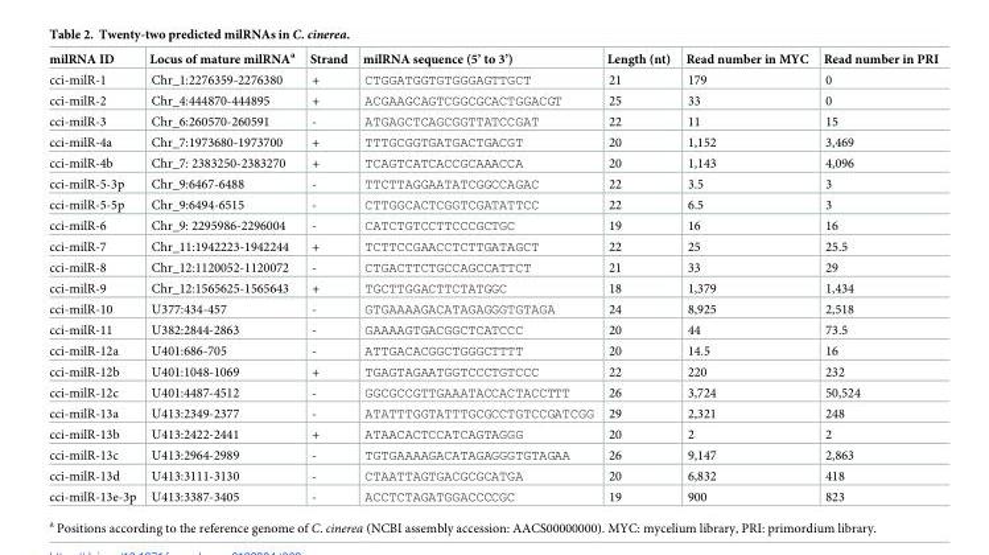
<table><thead><tr><td>milRNA ID</td><td>Locus of mature milRNA<sup>a</sup></td><td>Strand</td><td>milRNA sequence (5’ to 3’)</td><td>Length (nt)</td><td>Read number in MYC</td><td>Read number in PRI</td></tr></thead><tbody><tr><td>cci-milR-1</td><td>Chr_1:2276359-2276380</td><td>+</td><td>CTGGATGGTGTGGGAGTTGCT</td><td>21</td><td>179</td><td>0</td></tr><tr><td>cci-milR-2</td><td>Chr_4:444870-444895</td><td>+</td><td>ACGAAGCAGTCGGCGCACTGGACGT</td><td>25</td><td>33</td><td>0</td></tr><tr><td>cci-milR-3</td><td>Chr_6:260570-260591</td><td>-</td><td>ATGAGCTCAGCGGTTATCCGAT</td><td>22</td><td>11</td><td>15</td></tr><tr><td>cci-milR-4a</td><td>Chr_7:1973680-1973700</td><td>+</td><td>TTTGCGGTGATGACTGACGT</td><td>20</td><td>1,152</td><td>3,469</td></tr><tr><td>cci-milR-4b</td><td>Chr_7: 2383250-2383270</td><td>+</td><td>TCAGTCATCACCGCAAACCA</td><td>20</td><td>1,143</td><td>4,096</td></tr><tr><td>cci-milR-5-3p</td><td>Chr_9:6467-6488</td><td>-</td><td>TTCTTAGGAATATCGGCCAGAC</td><td>22</td><td>3.5</td><td>3</td></tr><tr><td>cci-milR-5-5p</td><td>Chr_9:6494-6515</td><td>-</td><td>CTTGGCACTCGGTCGATATTCC</td><td>22</td><td>6.5</td><td>3</td></tr><tr><td>cci-milR-6</td><td>Chr_9: 2295986-2296004</td><td>-</td><td>CATCTGTCCTTCCCGCTGC</td><td>19</td><td>16</td><td>16</td></tr><tr><td>cci-milR-7</td><td>Chr_11:1942223-1942244</td><td>+</td><td>TCTTCCGAACCTCTTGATAGCT</td><td>22</td><td>25</td><td>25.5</td></tr><tr><td>cci-milR-8</td><td>Chr_12:1120052-1120072</td><td>-</td><td>CTGACTTCTGCCAGCCATTCT</td><td>21</td><td>33</td><td>29</td></tr><tr><td>cci-milR-9</td><td>Chr_12:1565625-1565643</td><td>+</td><td>TGCTTGGACTTCTATGGC</td><td>18</td><td>1,379</td><td>1,434</td></tr><tr><td>cci-milR-10</td><td>U377:434-457</td><td>-</td><td>GTGAAAAGACATAGAGGGTGTAGA</td><td>24</td><td>8,925</td><td>2,518</td></tr><tr><td>cci-milR-11</td><td>U382:2844-2863</td><td>-</td><td>GAAAAGTGACGGCTCATCCC</td><td>20</td><td>44</td><td>73.5</td></tr><tr><td>cci-milR-12a</td><td>U401:686-705</td><td>-</td><td>ATTGACACGGCTGGGCTTTT</td><td>20</td><td>14.5</td><td>16</td></tr><tr><td>cci-milR-12b</td><td>U401:1048-1069</td><td>+</td><td>TGAGTAGAATGGTCCCTGTCCC</td><td>22</td><td>220</td><td>232</td></tr><tr><td>cci-milR-12c</td><td>U401:4487-4512</td><td>-</td><td>GGCGCCGTTGAAATACCACTACCTTT</td><td>26</td><td>3,724</td><td>50,524</td></tr><tr><td>cci-milR-13a</td><td>U413:2349-2377</td><td>-</td><td>ATATTTGGTATTTGCGCCTGTCCGATCGG</td><td>29</td><td>2,321</td><td>248</td></tr><tr><td>cci-milR-13b</td><td>U413:2422-2441</td><td>+</td><td>ATAACACTCCATCAGTAGGG</td><td>20</td><td>2</td><td>2</td></tr><tr><td>cci-milR-13c</td><td>U413:2964-2989</td><td>-</td><td>TGTGAAAAGACATAGAGGGTGTAGAA</td><td>26</td><td>9,147</td><td>2,863</td></tr><tr><td>cci-milR-13d</td><td>U413:3111-3130</td><td>-</td><td>CTAATTAGTGACGCGCATGA</td><td>20</td><td>6,832</td><td>418</td></tr><tr><td>cci-milR-13e-3p</td><td>U413:3387-3405</td><td>-</td><td>ACCTCTAGATGGACCCCGC</td><td>19</td><td>900</td><td>823</td></tr></tbody></table>